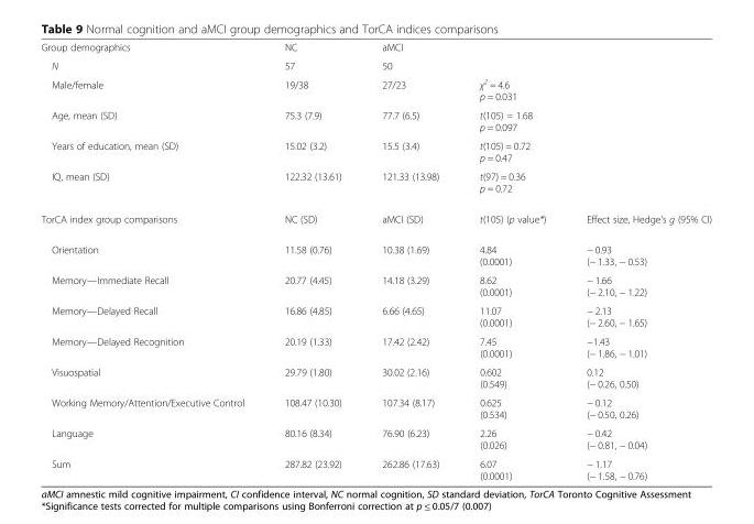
<table><tbody><tr><td>Group demographics</td><td>NC</td><td>aMCI</td><td colspan="2"></td></tr><tr><td>N</td><td>57</td><td>50</td><td colspan="2"></td></tr><tr><td>Male/female</td><td>19/38</td><td>27/23</td><td colspan="2">χ<sup>2</sup> = 4.6 p = 0.031</td></tr><tr><td>Age, mean (SD)</td><td>75.3 (7.9)</td><td>77.7 (6.5)</td><td colspan="2">t(105) = 1.68 p = 0.097</td></tr><tr><td>Years of education, mean (SD)</td><td>15.02 (3.2)</td><td>15.5 (3.4)</td><td colspan="2">t(105) = 0.72 p = 0.47</td></tr><tr><td>IQ, mean (SD)</td><td>122.32 (13.61)</td><td>121.33 (13.98)</td><td colspan="2">t(97) = 0.36 p = 0.72</td></tr><tr><td>TorCA index group comparisons</td><td>NC (SD)</td><td>aMCI (SD)</td><td>t(105) (p value*)</td><td>Effect size, Hedge’s g (95% CI)</td></tr><tr><td>Orientation</td><td>11.58 (0.76)</td><td>10.38 (1.69)</td><td>4.84 (0.0001)</td><td>− 0.93 (− 1.33, − 0.53)</td></tr><tr><td>Memory—Immediate Recall</td><td>20.77 (4.45)</td><td>14.18 (3.29)</td><td>8.62 (0.0001)</td><td>− 1.66 (− 2.10, − 1.22)</td></tr><tr><td>Memory—Delayed Recall</td><td>16.86 (4.85)</td><td>6.66 (4.65)</td><td>11.07 (0.0001)</td><td>− 2.13 (− 2.60, − 1.65)</td></tr><tr><td>Memory—Delayed Recognition</td><td>20.19 (1.33)</td><td>17.42 (2.42)</td><td>7.45 (0.0001)</td><td>−1.43 (− 1.86, − 1.01)</td></tr><tr><td>Visuospatial</td><td>29.79 (1.80)</td><td>30.02 (2.16)</td><td>0.602 (0.549)</td><td>0.12 (− 0.26, 0.50)</td></tr><tr><td>Working Memory/Attention/Executive Control</td><td>108.47 (10.30)</td><td>107.34 (8.17)</td><td>0.625 (0.534)</td><td>− 0.12 (− 0.50, 0.26)</td></tr><tr><td>Language</td><td>80.16 (8.34)</td><td>76.90 (6.23)</td><td>2.26 (0.026)</td><td>− 0.42 (− 0.81, − 0.04)</td></tr><tr><td>Sum</td><td>287.82 (23.92)</td><td>262.86 (17.63)</td><td>6.07 (0.0001)</td><td>− 1.17 (− 1.58, − 0.76)</td></tr></tbody></table>